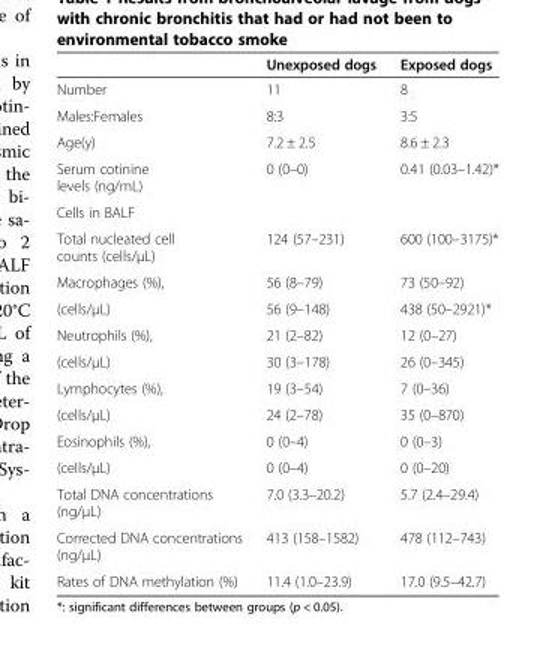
<table><thead><tr><td></td><td>Unexposed dogs</td><td>Exposed dogs</td></tr></thead><tbody><tr><td>Number</td><td>11</td><td>8</td></tr><tr><td>Males:Females</td><td>8:3</td><td>3:5</td></tr><tr><td>Age(y)</td><td>7.2 ± 2.5</td><td>8.6 ± 2.3</td></tr><tr><td>Serum cotinine levels (ng/mL)</td><td>0 (0–0)</td><td>0.41 (0.03–1.42)*</td></tr><tr><td colspan="3">Cells in BALF</td></tr><tr><td>Total nucleated cell counts (cells/μL)</td><td>124 (57–231)</td><td>600 (100–3175)*</td></tr><tr><td>Macrophages (%),</td><td>56 (8–79)</td><td>73 (50–92)</td></tr><tr><td>(cells/μL)</td><td>56 (9–148)</td><td>438 (50–2921)*</td></tr><tr><td>Neutrophils (%),</td><td>21 (2–82)</td><td>12 (0–27)</td></tr><tr><td>(cells/μL)</td><td>30 (3–178)</td><td>26 (0–345)</td></tr><tr><td>Lymphocytes (%),</td><td>19 (3–54)</td><td>7 (0–36)</td></tr><tr><td>(cells/μL)</td><td>24 (2–78)</td><td>35 (0–870)</td></tr><tr><td>Eosinophils (%),</td><td>0 (0–4)</td><td>0 (0–3)</td></tr><tr><td>(cells/μL)</td><td>0 (0–4)</td><td>0 (0–20)</td></tr><tr><td>Total DNA concentrations (ng/μL)</td><td>7.0 (3.3–20.2)</td><td>5.7 (2.4–29.4)</td></tr><tr><td>Corrected DNA concentrations (ng/μL)</td><td>413 (158–1582)</td><td>478 (112–743)</td></tr><tr><td>Rates of DNA methylation (%)</td><td>11.4 (1.0–23.9)</td><td>17.0 (9.5–42.7)</td></tr></tbody></table>